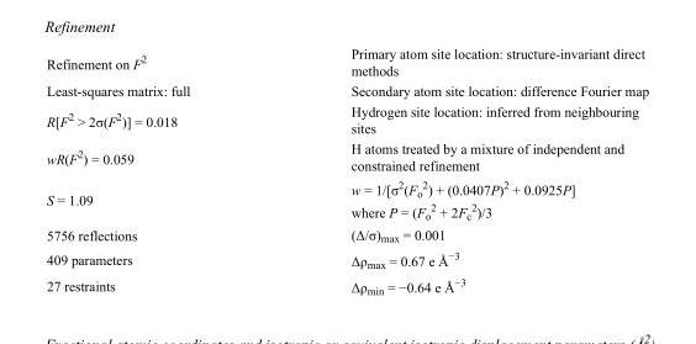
<table><tbody><tr><td>Refinement on F<sup>2</sup></td><td>Primary atom site location: structure-invariant direct methods</td></tr><tr><td>Least-squares matrix: full</td><td>Secondary atom site location: difference Fourier map</td></tr><tr><td>R[F<sup>2</sup> &gt; 2σ(F<sup>2</sup>)] = 0.018</td><td>Hydrogen site location: inferred from neighbouring sites</td></tr><tr><td>wR(F<sup>2</sup>) = 0.059</td><td>H atoms treated by a mixture of independent and constrained refinement</td></tr><tr><td>S = 1.09</td><td>w = 1/[σ<sup>2</sup>(F<sub>o</sub> <sup>2</sup>) + (0.0407P)<sup>2</sup> + 0.0925P] where P = (F<sub>o</sub> <sup>2</sup> + 2F<sub>c</sub> <sup>2</sup>)/3</td></tr><tr><td>5756 reflections</td><td>(Δ/σ)<sub>max</sub> = 0.001</td></tr><tr><td>409 parameters</td><td>Δρ<sub>max</sub> = 0.67 e Å<sup>−3</sup></td></tr><tr><td>27 restraints</td><td>Δρ<sub>min</sub> = −0.64 e Å<sup>−3</sup></td></tr></tbody></table>